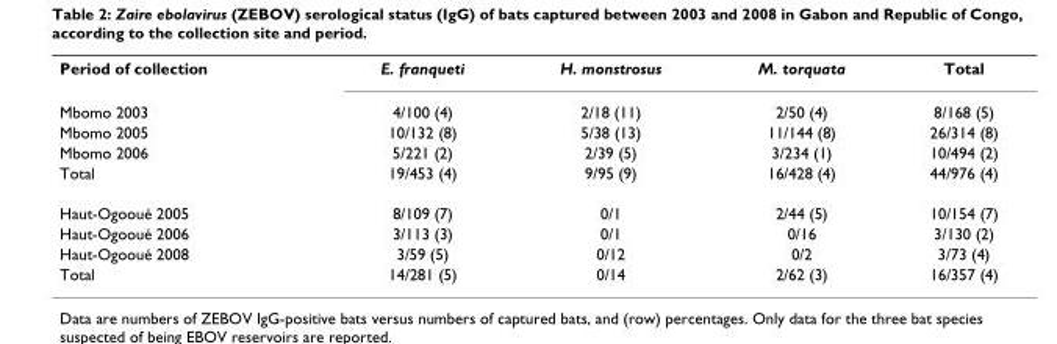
<table><tbody><tr><td>Period of collection</td><td>E. franqueti</td><td>H. monstrosus</td><td>M. torquata</td><td>Total</td></tr><tr><td>Mbomo 2003</td><td>4/100 (4)</td><td>2/18 (11)</td><td>2/50 (4)</td><td>8/168 (5)</td></tr><tr><td>Mbomo 2005</td><td>10/132 (8)</td><td>5/38 (13)</td><td>11/144 (8)</td><td>26/314 (8)</td></tr><tr><td>Mbomo 2006</td><td>5/221 (2)</td><td>2/39 (5)</td><td>3/234 (1)</td><td>10/494 (2)</td></tr><tr><td>Total</td><td>19/453 (4)</td><td>9/95 (9)</td><td>16/428 (4)</td><td>44/976 (4)</td></tr><tr><td>Haut-Ogooué 2005</td><td>8/109 (7)</td><td>0/1</td><td>2/44 (5)</td><td>10/154 (7)</td></tr><tr><td>Haut-Ogooué 2006</td><td>3/113 (3)</td><td>0/1</td><td>0/16</td><td>3/130 (2)</td></tr><tr><td>Haut-Ogooué 2008</td><td>3/59 (5)</td><td>0/12</td><td>0/2</td><td>3/73 (4)</td></tr><tr><td>Total</td><td>14/281 (5)</td><td>0/14</td><td>2/62 (3)</td><td>16/357 (4)</td></tr></tbody></table>